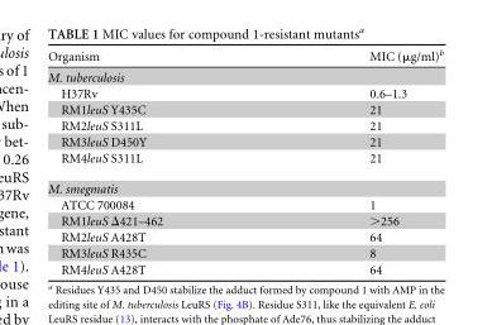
<table><thead><tr><td>Organism</td><td>MIC (μg/ml)<sup>b</sup></td></tr></thead><tbody><tr><td colspan="2">M. tuberculosis</td></tr><tr><td>H37Rv</td><td>0.6–1.3</td></tr><tr><td>RM1leuS Y435C</td><td>21</td></tr><tr><td>RM2leuS S311L</td><td>21</td></tr><tr><td>RM3leuS D450Y</td><td>21</td></tr><tr><td>RM4leuS S311L</td><td>21</td></tr><tr><td colspan="2">M. smegmatis</td></tr><tr><td>ATCC 700084</td><td>1</td></tr><tr><td>RM1leuS Δ421–462</td><td>&gt;256</td></tr><tr><td>RM2leuS A428T</td><td>64</td></tr><tr><td>RM3leuS R435C</td><td>8</td></tr><tr><td>RM4leuS A428T</td><td>64</td></tr></tbody></table>